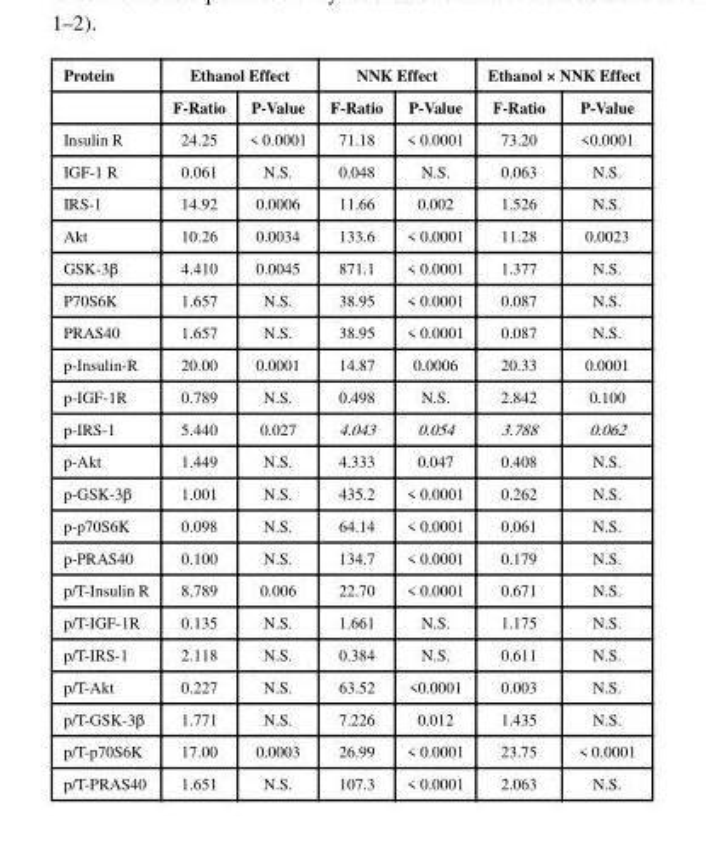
<table><thead><tr><td rowspan="2">Protein</td><td colspan="2">Ethanol Effect</td><td colspan="2">NNK Effect</td><td colspan="2">Ethanol × NNK Effect</td></tr><tr><td>F-Ratio</td><td>P-Value</td><td>F-Ratio</td><td>P-Value</td><td>F-Ratio</td><td>P-Value</td></tr></thead><tbody><tr><td>Insulin R</td><td>24.25</td><td>&lt; 0.0001</td><td>71.18</td><td>&lt; 0.0001</td><td>73.20</td><td>&lt;0.0001</td></tr><tr><td>IGF-1 R</td><td>0.061</td><td>N.S.</td><td>0.048</td><td>N.S.</td><td>0.063</td><td>N.S.</td></tr><tr><td>IRS-1</td><td>14.92</td><td>0.0006</td><td>11.66</td><td>0.002</td><td>1.526</td><td>N.S.</td></tr><tr><td>Akt</td><td>10.26</td><td>0.0034</td><td>133.6</td><td>&lt; 0.0001</td><td>11.28</td><td>0.0023</td></tr><tr><td>GSK-3β</td><td>4.410</td><td>0.0045</td><td>871.1</td><td>&lt; 0.0001</td><td>1.377</td><td>N.S.</td></tr><tr><td>P70S6K</td><td>1.657</td><td>N.S.</td><td>38.95</td><td>&lt; 0.0001</td><td>0.087</td><td>N.S.</td></tr><tr><td>PRAS40</td><td>1.657</td><td>N.S.</td><td>38.95</td><td>&lt; 0.0001</td><td>0.087</td><td>N.S.</td></tr><tr><td>p-Insulin-R</td><td>20.00</td><td>0.0001</td><td>14.87</td><td>0.0006</td><td>20.33</td><td>0.0001</td></tr><tr><td>p-IGF-1R</td><td>0.789</td><td>N.S.</td><td>0.498</td><td>N.S.</td><td>2.842</td><td>0.100</td></tr><tr><td>p-IRS-1</td><td>5.440</td><td>0.027</td><td>4.043</td><td>0.054</td><td>3.788</td><td>0.062</td></tr><tr><td>p-Akt</td><td>1.449</td><td>N.S.</td><td>4.333</td><td>0.047</td><td>0.408</td><td>N.S.</td></tr><tr><td>p-GSK-3β</td><td>1.001</td><td>N.S.</td><td>435.2</td><td>&lt; 0.0001</td><td>0.262</td><td>N.S.</td></tr><tr><td>p-p70S6K</td><td>0.098</td><td>N.S.</td><td>64.14</td><td>&lt; 0.0001</td><td>0.061</td><td>N.S.</td></tr><tr><td>p-PRAS40</td><td>0.100</td><td>N.S.</td><td>134.7</td><td>&lt; 0.0001</td><td>0.179</td><td>N.S.</td></tr><tr><td>p/T-Insulin R</td><td>8.789</td><td>0.006</td><td>22.70</td><td>&lt; 0.0001</td><td>0.671</td><td>N.S.</td></tr><tr><td>p/T-IGF-1R</td><td>0.135</td><td>N.S.</td><td>1.661</td><td>N.S.</td><td>1.175</td><td>N.S.</td></tr><tr><td>p/T-IRS-1</td><td>2.118</td><td>N.S.</td><td>0.384</td><td>N.S.</td><td>0.611</td><td>N.S.</td></tr><tr><td>p/T-Akt</td><td>0.227</td><td>N.S.</td><td>63.52</td><td>&lt;0.0001</td><td>0.003</td><td>N.S.</td></tr><tr><td>p/T-GSK-3β</td><td>1.771</td><td>N.S.</td><td>7.226</td><td>0.012</td><td>1.435</td><td>N.S.</td></tr><tr><td>p/T-p70S6K</td><td>17.00</td><td>0.0003</td><td>26.99</td><td>&lt; 0.0001</td><td>23.75</td><td>&lt; 0.0001</td></tr><tr><td>p/T-PRAS40</td><td>1.651</td><td>N.S.</td><td>107.3</td><td>&lt; 0.0001</td><td>2.063</td><td>N.S.</td></tr></tbody></table>